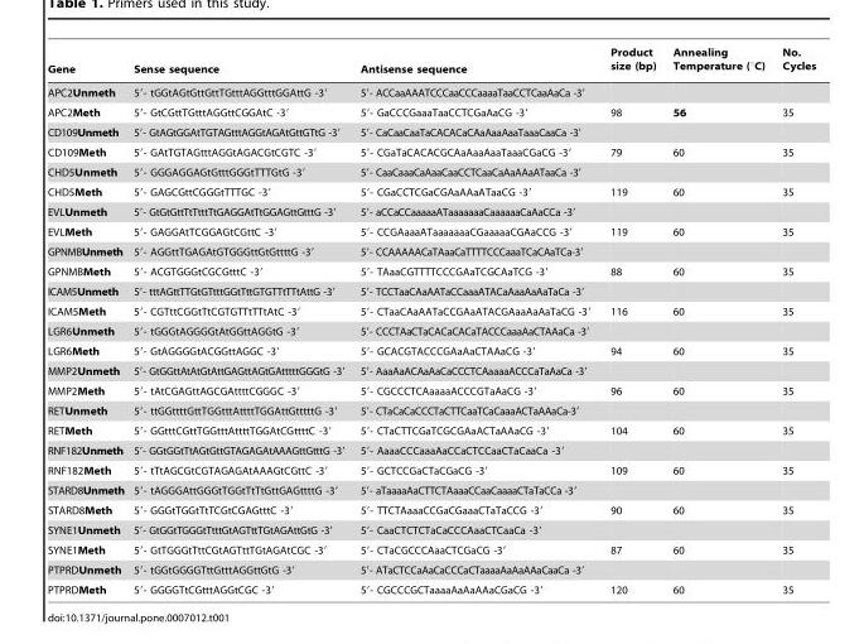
<table><thead><tr><td>Gene</td><td>Sense sequence</td><td>Antisense sequence</td><td>Product size (bp)</td><td>Annealing Temperature (°C)</td><td>No. Cycles</td></tr></thead><tbody><tr><td>APC2Unmeth</td><td>5′- tGGtAGtGttGttTGtttAGGtttGGAttG -3′</td><td>5′- ACCaaAAATCCCaaCCCaaaaTaaCCTCaaAaCa -3′</td><td></td><td></td><td></td></tr><tr><td>APC2Meth</td><td>5′- GtCGttTGtttAGGttCGGAtC -3′</td><td>5′- GaCCCGaaaTaaCCTCGaAaCG -3′</td><td>98</td><td>56</td><td>35</td></tr><tr><td>CD109Unmeth</td><td>5′- GtAGtGGAtTGTAGtttAGGtAGAtGttGTtG -3′</td><td>5′- CaCaaCaaTaCACACaCAaAaaAaaTaaaCaaCa -3′</td><td></td><td></td><td></td></tr><tr><td>CD109Meth</td><td>5′- GAtTGTAGtttAGGtAGACGtCGTC -3′</td><td>5′- CGaTaCACACGCAaAaaAaaTaaaCGaCG -3′</td><td>79</td><td>60</td><td>35</td></tr><tr><td>CHD5Unmeth</td><td>5′- GGGAGGAGtGtttGGGtTTTGtG -3′</td><td>5′- CaaCaaaCaAaaCaaCCTCaaCaAaAAaATaaCa -3′</td><td></td><td></td><td></td></tr><tr><td>CHD5Meth</td><td>5′- GAGCGttCGGGtTTTGC -3′</td><td>5′- CGaCCTCGaCGAaAAaATaaCG -3′</td><td>119</td><td>60</td><td>35</td></tr><tr><td>EVLUnmeth</td><td>5′- GtGtGttTtTtttTtGAGGAtTtGGAGttGtttG -3′</td><td>5′- aCCaCCaaaaaATaaaaaaaCaaaaaaCaAaCCa -3′</td><td></td><td></td><td></td></tr><tr><td>EVLMeth</td><td>5′- GAGGAtTCGGAGtCGttC -3′</td><td>5′- CCGAaaaATaaaaaaaCGaaaaaCGAaCCG -3′</td><td>119</td><td>60</td><td>35</td></tr><tr><td>GPNMBUnmeth</td><td>5′- AGGttTGAGAtGTGGGttGtGttttG -3′</td><td>5′- CCAAAAACaTAaaCaTTTTCCCaaaTCaCAaTCa-3′</td><td></td><td></td><td></td></tr><tr><td>GPNMBMeth</td><td>5′- ACGTGGGtCGCGtttC -3′</td><td>5′- TAaaCGTTTTCCCGAaTCGCAaTCG -3′</td><td>88</td><td>60</td><td>35</td></tr><tr><td>ICAM5Unmeth</td><td>5′- tttAGttTTGtGTtttGGtTttGTGTTtTTtAttG -3′</td><td>5′- TCCTaaCAaAATaCCaaaATACaAaaAaAaTaCa -3′</td><td></td><td></td><td></td></tr><tr><td>ICAM5Meth</td><td>5′- CGTttCGGtTtCGTGTTtTTtAtC -3′</td><td>5′- CTaaCAaAATaCCGAaATACGAaaAaAaTaCG -3′</td><td>116</td><td>60</td><td>35</td></tr><tr><td>LGR6Unmeth</td><td>5′- tGGGtAGGGGtAtGGttAGGtG -3′</td><td>5′- CCCTAaCTaCACaCACaTACCCaaaAaCTAAaCa -3′</td><td></td><td></td><td></td></tr><tr><td>LGR6Meth</td><td>5′- GtAGGGGtACGGttAGGC -3′</td><td>5′- GCACGTACCCGAaAaCTAAaCG -3′</td><td>94</td><td>60</td><td>35</td></tr><tr><td>MMP2Unmeth</td><td>5′- GtGGttAtAtGtAttGAGttAGtGAtttttGGGtG -3′</td><td>5′- AaaAaACAaAaCaCCCTCAaaaaACCCaTaAaCa -3′</td><td></td><td></td><td></td></tr><tr><td>MMP2Meth</td><td>5′- tAtCGAGttAGCGAttttCGGGC -3′</td><td>5′- CGCCCTCAaaaaACCCGTaAaCG -3′</td><td>96</td><td>60</td><td>35</td></tr><tr><td>RETUnmeth</td><td>5′- ttGGttttGttTGGtttAttttTGGAttGtttttG -3′</td><td>5′- CTaCaCaCCCTaCTTCaaTCaCaaaACTaAAaCa-3′</td><td></td><td></td><td></td></tr><tr><td>RETMeth</td><td>5′- GGtttCGttTGGtttAttttTGGAtCGttttC -3′</td><td>5′- CTaCTTCGaTCGCGAaACTaAAaCG -3′</td><td>104</td><td>60</td><td>35</td></tr><tr><td>RNF182Unmeth</td><td>5′- GGtGGtTtAGtGttGTAGAGAtAAAGttGtttG -3′</td><td>5′- AaaaCCCaaaAaCCaCTCCaaCTaCaaCa -3′</td><td></td><td></td><td></td></tr><tr><td>RNF182Meth</td><td>5′- tTtAGCGtCGTAGAGAtAAAGtCGttC -3′</td><td>5′- GCTCCGaCTaCGaCG -3′</td><td>109</td><td>60</td><td>35</td></tr><tr><td>STARD8Unmeth</td><td>5′- tAGGGAttGGGtTGGtTtTtGttGAGttttG -3′</td><td>5′- aTaaaaAaCTTCTAaaaCCaaCaaaaCTaTaCCa -3′</td><td></td><td></td><td></td></tr><tr><td>STARD8Meth</td><td>5′- GGGtTGGtTtTCGtCGAGtttC -3′</td><td>5′- TTCTAaaaCCGaCGaaaCTaTaCCG -3′</td><td>90</td><td>60</td><td>35</td></tr><tr><td>SYNE1Unmeth</td><td>5′- GtGGtTGGGtTtttGtAGTttTGtAGAttGtG -3′</td><td>5′- CaaCTCTCTaCaCCCAaaCTCaaCa -3′</td><td></td><td></td><td></td></tr><tr><td>SYNE1Meth</td><td>5′- GtTGGGtTttCGtAGTttTGtAGAtCGC -3′</td><td>5′- CTaCGCCCAaaCTCGaCG -3′</td><td>87</td><td>60</td><td>35</td></tr><tr><td>PTPRDUnmeth</td><td>5′- tGGtGGGGTttGtttAGGttGtG -3′</td><td>5′- ATaCTCCaAaCaCCCaCTaaaaAaAaAAaCaaCa -3′</td><td></td><td></td><td></td></tr><tr><td>PTPRDMeth</td><td>5′- GGGGTtCGtttAGGtCGC -3′</td><td>5′- CGCCCGCTaaaaAaAaAAaCGaCG -3′</td><td>120</td><td>60</td><td>35</td></tr></tbody></table>